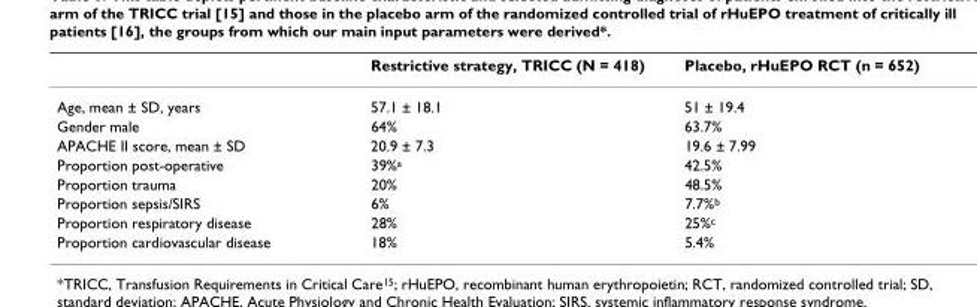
<table><thead><tr><td></td><td>Restrictive strategy, TRICC (N = 418)</td><td>Placebo, rHuEPO RCT (n = 652)</td></tr></thead><tbody><tr><td>Age, mean ± SD, years</td><td>57.1 ± 18.1</td><td>51 ± 19.4</td></tr><tr><td>Gender male</td><td>64%</td><td>63.7%</td></tr><tr><td>APACHE II score, mean ± SD</td><td>20.9 ± 7.3</td><td>19.6 ± 7.99</td></tr><tr><td>Proportion post-operative</td><td>39%<sup>a</sup></td><td>42.5%</td></tr><tr><td>Proportion trauma</td><td>20%</td><td>48.5%</td></tr><tr><td>Proportion sepsis/SIRS</td><td>6%</td><td>7.7%<sup>b</sup></td></tr><tr><td>Proportion respiratory disease</td><td>28%</td><td>25%<sup>c</sup></td></tr><tr><td>Proportion cardiovascular disease</td><td>18%</td><td>5.4%</td></tr></tbody></table>